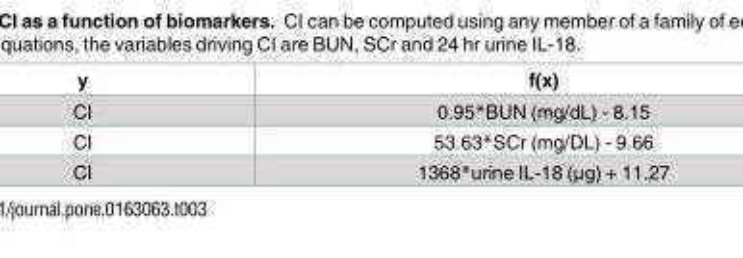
<table><thead><tr><td>y</td><td>f(x)</td></tr></thead><tbody><tr><td>CI</td><td>0.95*BUN (mg/dL) - 8.15</td></tr><tr><td>CI</td><td>53.63*SCr (mg/DL) - 9.66</td></tr><tr><td>CI</td><td>1368*urine IL-18 (μg) + 11.27</td></tr></tbody></table>